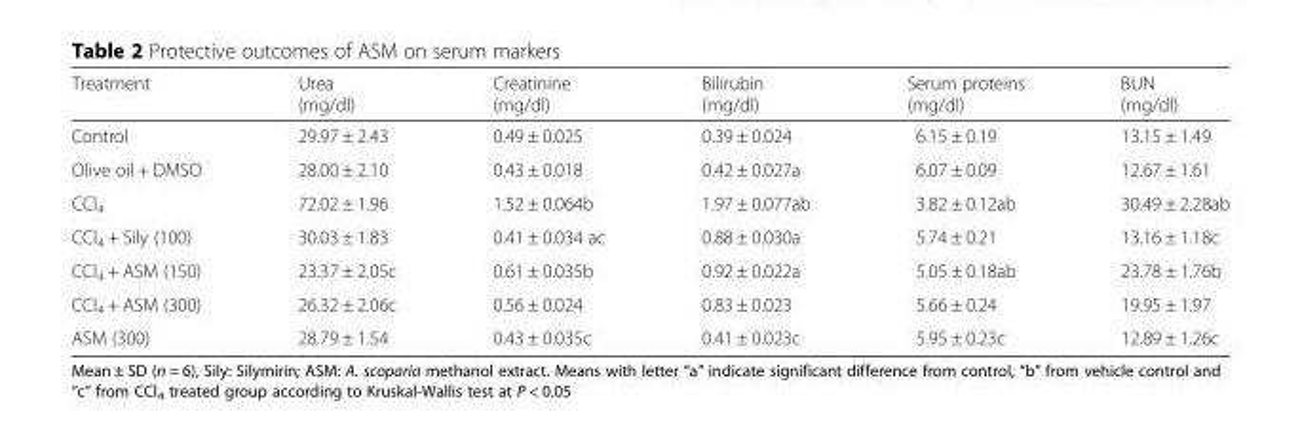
<table><thead><tr><td>Treatment</td><td>Urea (mg/dl)</td><td>Creatinine (mg/dl)</td><td>Bilirubin (mg/dl)</td><td>Serum proteins (mg/dl)</td><td>BUN (mg/dl)</td></tr></thead><tbody><tr><td>Control</td><td>29.97 ± 2.43</td><td>0.49 ± 0.025</td><td>0.39 ± 0.024</td><td>6.15 ± 0.19</td><td>13.15 ± 1.49</td></tr><tr><td>Olive oil + DMSO</td><td>28.00 ± 2.10</td><td>0.43 ± 0.018</td><td>0.42 ± 0.027a</td><td>6.07 ± 0.09</td><td>12.67 ± 1.61</td></tr><tr><td>CCl<sub>4</sub></td><td>72.02 ± 1.96</td><td>1.52 ± 0.064b</td><td>1.97 ± 0.077ab</td><td>3.82 ± 0.12ab</td><td>30.49 ± 2.28ab</td></tr><tr><td>CCl<sub>4</sub> + Sily (100)</td><td>30.03 ± 1.83</td><td>0.41 ± 0.034 ac</td><td>0.88 ± 0.030a</td><td>5.74 ± 0.21</td><td>13.16 ± 1.18c</td></tr><tr><td>CCl<sub>4</sub> + ASM (150)</td><td>23.37 ± 2.05c</td><td>0.61 ± 0.035b</td><td>0.92 ± 0.022a</td><td>5.05 ± 0.18ab</td><td>23.78 ± 1.76b</td></tr><tr><td>CCl<sub>4</sub> + ASM (300)</td><td>26.32 ± 2.06c</td><td>0.56 ± 0.024</td><td>0.83 ± 0.023</td><td>5.66 ± 0.24</td><td>19.95 ± 1.97</td></tr><tr><td>ASM (300)</td><td>28.79 ± 1.54</td><td>0.43 ± 0.035c</td><td>0.41 ± 0.023c</td><td>5.95 ± 0.23c</td><td>12.89 ± 1.26c</td></tr></tbody></table>